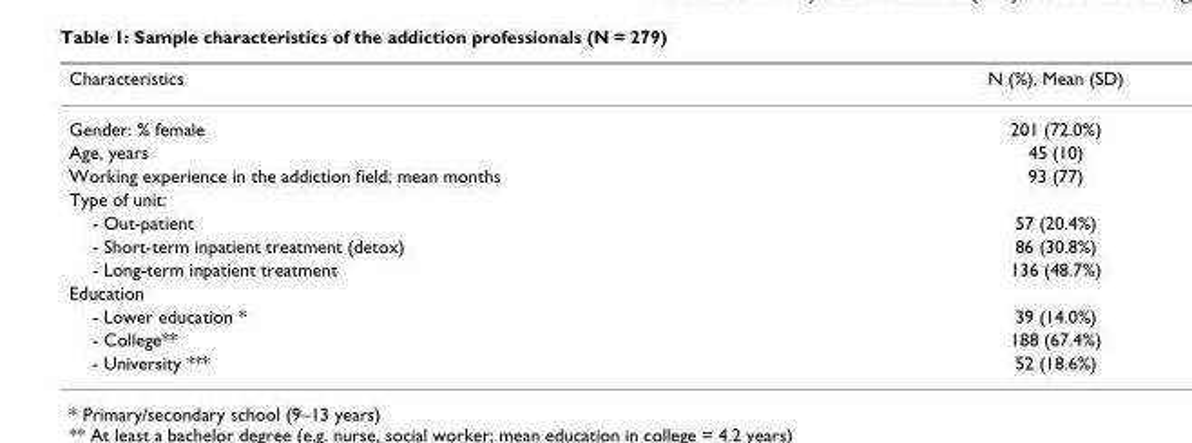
<table><thead><tr><td>Characteristics</td><td>N (%), Mean (SD)</td></tr></thead><tbody><tr><td>Gender: % female</td><td>201 (72.0%)</td></tr><tr><td>Age, years</td><td>45 (10)</td></tr><tr><td>Working experience in the addiction field; mean months</td><td>93 (77)</td></tr><tr><td colspan="2">Type of unit:</td></tr><tr><td>- Out-patient</td><td>57 (20.4%)</td></tr><tr><td>- Short-term inpatient treatment (detox)</td><td>86 (30.8%)</td></tr><tr><td>- Long-term inpatient treatment</td><td>136 (48.7%)</td></tr><tr><td colspan="2">Education</td></tr><tr><td>- Lower education *</td><td>39 (14.0%)</td></tr><tr><td>- College**</td><td>188 (67.4%)</td></tr><tr><td>- University ***</td><td>52 (18.6%)</td></tr></tbody></table>